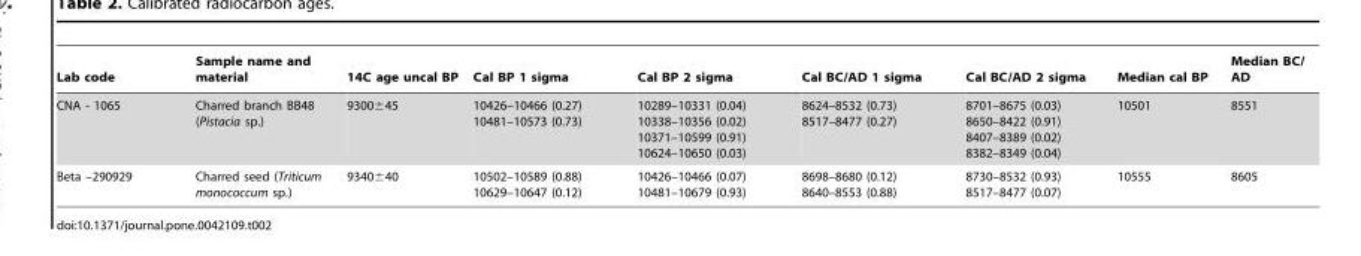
<table><thead><tr><td>Lab code</td><td>Sample name and material</td><td>14C age uncal BP</td><td>Cal BP 1 sigma</td><td>Cal BP 2 sigma</td><td>Cal BC/AD 1 sigma</td><td>Cal BC/AD 2 sigma</td><td>Median cal BP</td><td>Median BC/ AD</td></tr></thead><tbody><tr><td>CNA - 1065</td><td>Charred branch BB48 (Pistacia sp.)</td><td>9300±45</td><td>10426–10466 (0.27) 10481–10573 (0.73)</td><td>10289–10331 (0.04) 10338–10356 (0.02) 10371–10599 (0.91) 10624–10650 (0.03)</td><td>8624–8532 (0.73) 8517–8477 (0.27)</td><td>8701–8675 (0.03) 8650–8422 (0.91) 8407–8389 (0.02) 8382–8349 (0.04)</td><td>10501</td><td>8551</td></tr><tr><td>Beta –290929</td><td>Charred seed (Triticum monococcum sp.)</td><td>9340±40</td><td>10502–10589 (0.88) 10629–10647 (0.12)</td><td>10426–10466 (0.07) 10481–10679 (0.93)</td><td>8698–8680 (0.12) 8640–8553 (0.88)</td><td>8730–8532 (0.93) 8517–8477 (0.07)</td><td>10555</td><td>8605</td></tr></tbody></table>